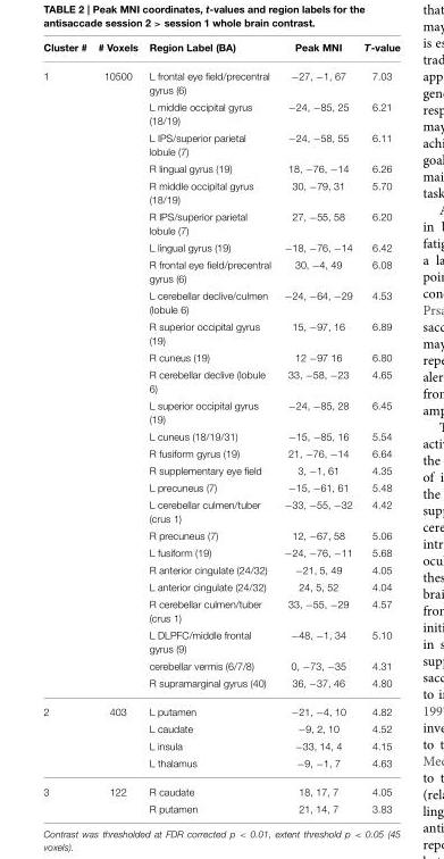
<table><thead><tr><td>Cluster #</td><td># Voxels</td><td>Region Label (BA)</td><td>Peak MNI</td><td>T-value</td></tr></thead><tbody><tr><td rowspan="26">1</td><td>10500</td><td>L frontal eye field/precentral gyrus (6)</td><td>−27, −1, 67</td><td>7.03</td></tr><tr><td></td><td>L middle occipital gyrus (18/19)</td><td>−24, −85, 25</td><td>6.21</td></tr><tr><td></td><td>L IPS/superior parietal lobule (7)</td><td>−24, −58, 55</td><td>6.11</td></tr><tr><td></td><td>R lingual gyrus (19)</td><td>18, −76, −14</td><td>6.26</td></tr><tr><td></td><td>R middle occipital gyrus (18/19)</td><td>30, −79, 31</td><td>5.70</td></tr><tr><td></td><td>R IPS/superior parietal lobule (7)</td><td>27, −55, 58</td><td>6.20</td></tr><tr><td></td><td>L lingual gyrus (19)</td><td>−18, −76, −14</td><td>6.42</td></tr><tr><td></td><td>R frontal eye field/precentral gyrus (6)</td><td>30, −4, 49</td><td>6.08</td></tr><tr><td></td><td>L cerebellar declive/culmen (lobule 6)</td><td>−24, −64, −29</td><td>4.53</td></tr><tr><td></td><td>R superior occipital gyrus (19)</td><td>15, −97, 16</td><td>6.89</td></tr><tr><td></td><td>R cuneus (19)</td><td>12 −97 16</td><td>6.80</td></tr><tr><td></td><td>R cerebellar declive (lobule 6)</td><td>33, −58, −23</td><td>4.65</td></tr><tr><td></td><td>L superior occipital gyrus (19)</td><td>−24, −85, 28</td><td>6.45</td></tr><tr><td></td><td>L cuneus (18/19/31)</td><td>−15, −85, 16</td><td>5.54</td></tr><tr><td></td><td>R fusiform gyrus (19)</td><td>21, −76, −14</td><td>6.64</td></tr><tr><td></td><td>R supplementary eye field</td><td>3, −1, 61</td><td>4.35</td></tr><tr><td></td><td>L precuneus (7)</td><td>−15, −61, 61</td><td>5.48</td></tr><tr><td></td><td>L cerebellar culmen/tuber (crus 1)</td><td>−33, −55, −32</td><td>4.42</td></tr><tr><td></td><td>R precuneus (7)</td><td>12, −67, 58</td><td>5.06</td></tr><tr><td></td><td>L fusiform (19)</td><td>−24, −76, −11</td><td>5.68</td></tr><tr><td></td><td>R anterior cingulate (24/32)</td><td>−21, 5, 49</td><td>4.05</td></tr><tr><td></td><td>L anterior cingulate (24/32)</td><td>24, 5, 52</td><td>4.04</td></tr><tr><td></td><td>R cerebellar culmen/tuber (crus 1)</td><td>33, −55, −29</td><td>4.57</td></tr><tr><td></td><td>L DLPFC/middle frontal gyrus (9)</td><td>−48, −1, 34</td><td>5.10</td></tr><tr><td></td><td>cerebellar vermis (6/7/8)</td><td>0, −73, −35</td><td>4.31</td></tr><tr><td></td><td>R supramarginal gyrus (40)</td><td>36, −37, 46</td><td>4.80</td></tr><tr><td rowspan="4">2</td><td>403</td><td>L putamen</td><td>−21, −4, 10</td><td>4.82</td></tr><tr><td></td><td>L caudate</td><td>−9, 2, 10</td><td>4.52</td></tr><tr><td></td><td>L insula</td><td>−33, 14, 4</td><td>4.15</td></tr><tr><td></td><td>L thalamus</td><td>−9, −1, 7</td><td>4.63</td></tr><tr><td rowspan="2">3</td><td>122</td><td>R caudate</td><td>18, 17, 7</td><td>4.05</td></tr><tr><td></td><td>R putamen</td><td>21, 14, 7</td><td>3.83</td></tr></tbody></table>